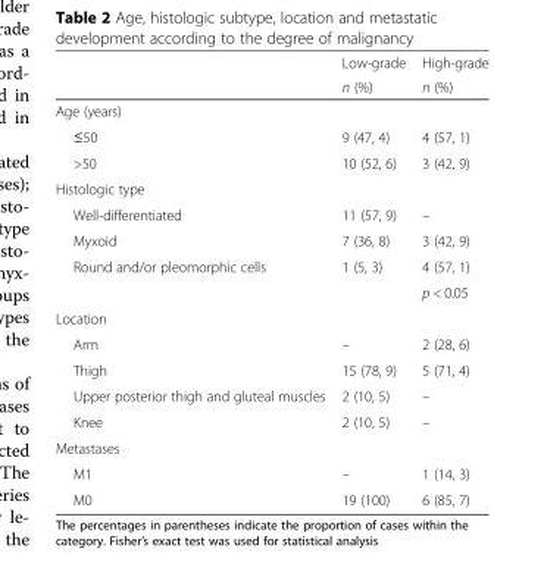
<table><thead><tr><td rowspan="2"></td><td rowspan="2">Low-grade n (%)</td><td rowspan="2">High-grade n (%)</td></tr><tr></tr></thead><tbody><tr><td colspan="3">Age (years)</td></tr><tr><td>≤50</td><td>9 (47, 4)</td><td>4 (57, 1)</td></tr><tr><td>&gt;50</td><td>10 (52, 6)</td><td>3 (42, 9)</td></tr><tr><td colspan="3">Histologic type</td></tr><tr><td>Well-differentiated</td><td>11 (57, 9)</td><td>–</td></tr><tr><td>Myxoid</td><td>7 (36, 8)</td><td>3 (42, 9)</td></tr><tr><td rowspan="2">Round and/or pleomorphic cells</td><td>1 (5, 3)</td><td>4 (57, 1)</td></tr><tr><td></td><td>p &lt; 0.05</td></tr><tr><td colspan="3">Location</td></tr><tr><td>Arm</td><td>–</td><td>2 (28, 6)</td></tr><tr><td>Thigh</td><td>15 (78, 9)</td><td>5 (71, 4)</td></tr><tr><td>Upper posterior thigh and gluteal muscles</td><td>2 (10, 5)</td><td>–</td></tr><tr><td>Knee</td><td>2 (10, 5)</td><td>–</td></tr><tr><td colspan="3">Metastases</td></tr><tr><td>M1</td><td>–</td><td>1 (14, 3)</td></tr><tr><td>M0</td><td>19 (100)</td><td>6 (85, 7)</td></tr></tbody></table>